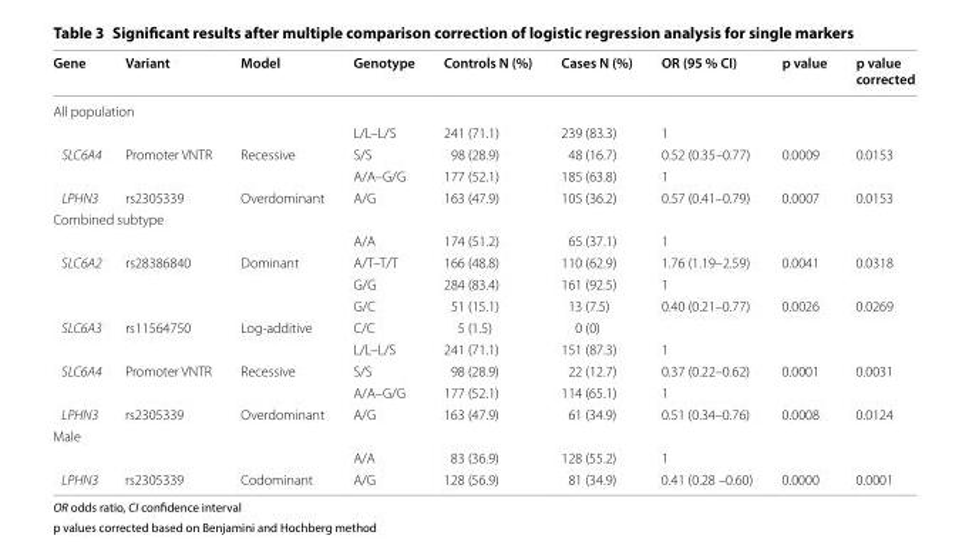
<table><thead><tr><td>Gene</td><td>Variant</td><td>Model</td><td>Genotype</td><td>Controls N (%)</td><td>Cases N (%)</td><td>OR (95 % CI)</td><td>p value</td><td>p value corrected</td></tr></thead><tbody><tr><td colspan="9">All population</td></tr><tr><td></td><td></td><td></td><td>L/L–L/S</td><td>241 (71.1)</td><td>239 (83.3)</td><td>1</td><td></td><td></td></tr><tr><td rowspan="2">SLC6A4</td><td>Promoter VNTR</td><td>Recessive</td><td>S/S</td><td>98 (28.9)</td><td>48 (16.7)</td><td>0.52 (0.35–0.77)</td><td>0.0009</td><td>0.0153</td></tr><tr><td></td><td></td><td>A/A–G/G</td><td>177 (52.1)</td><td>185 (63.8)</td><td>1</td><td></td><td></td></tr><tr><td>LPHN3</td><td>rs2305339</td><td>Overdominant</td><td>A/G</td><td>163 (47.9)</td><td>105 (36.2)</td><td>0.57 (0.41–0.79)</td><td>0.0007</td><td>0.0153</td></tr><tr><td colspan="9">Combined subtype</td></tr><tr><td></td><td></td><td></td><td>A/A</td><td>174 (51.2)</td><td>65 (37.1)</td><td>1</td><td></td><td></td></tr><tr><td rowspan="3">SLC6A2</td><td>rs28386840</td><td>Dominant</td><td>A/T–T/T</td><td>166 (48.8)</td><td>110 (62.9)</td><td>1.76 (1.19–2.59)</td><td>0.0041</td><td>0.0318</td></tr><tr><td></td><td></td><td>G/G</td><td>284 (83.4)</td><td>161 (92.5)</td><td>1</td><td></td><td></td></tr><tr><td></td><td></td><td>G/C</td><td>51 (15.1)</td><td>13 (7.5)</td><td>0.40 (0.21–0.77)</td><td>0.0026</td><td>0.0269</td></tr><tr><td rowspan="2">SLC6A3</td><td>rs11564750</td><td>Log‑additive</td><td>C/C</td><td>5 (1.5)</td><td>0 (0)</td><td></td><td></td><td></td></tr><tr><td></td><td></td><td>L/L–L/S</td><td>241 (71.1)</td><td>151 (87.3)</td><td>1</td><td></td><td></td></tr><tr><td rowspan="2">SLC6A4</td><td>Promoter VNTR</td><td>Recessive</td><td>S/S</td><td>98 (28.9)</td><td>22 (12.7)</td><td>0.37 (0.22–0.62)</td><td>0.0001</td><td>0.0031</td></tr><tr><td></td><td></td><td>A/A–G/G</td><td>177 (52.1)</td><td>114 (65.1)</td><td>1</td><td></td><td></td></tr><tr><td>LPHN3</td><td>rs2305339</td><td>Overdominant</td><td>A/G</td><td>163 (47.9)</td><td>61 (34.9)</td><td>0.51 (0.34–0.76)</td><td>0.0008</td><td>0.0124</td></tr><tr><td colspan="9">Male</td></tr><tr><td></td><td></td><td></td><td>A/A</td><td>83 (36.9)</td><td>128 (55.2)</td><td>1</td><td></td><td></td></tr><tr><td>LPHN3</td><td>rs2305339</td><td>Codominant</td><td>A/G</td><td>128 (56.9)</td><td>81 (34.9)</td><td>0.41 (0.28 –0.60)</td><td>0.0000</td><td>0.0001</td></tr></tbody></table>